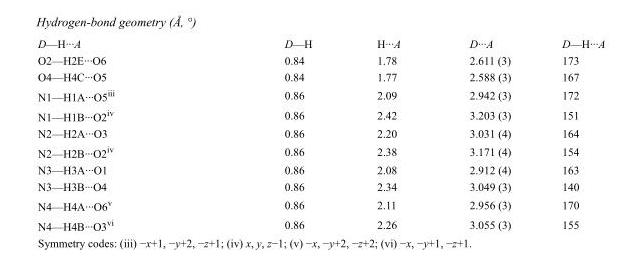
<table><tbody><tr><td>D—H···A</td><td>D—H</td><td>H···A</td><td>D···A</td><td>D—H···A</td></tr><tr><td>O2—H2E···O6</td><td>0.84</td><td>1.78</td><td>2.611 (3)</td><td>173</td></tr><tr><td>O4—H4C···O5</td><td>0.84</td><td>1.77</td><td>2.588 (3)</td><td>167</td></tr><tr><td>N1—H1A···O5<sup>iii</sup></td><td>0.86</td><td>2.09</td><td>2.942 (3)</td><td>172</td></tr><tr><td>N1—H1B···O2<sup>iv</sup></td><td>0.86</td><td>2.42</td><td>3.203 (3)</td><td>151</td></tr><tr><td>N2—H2A···O3</td><td>0.86</td><td>2.20</td><td>3.031 (4)</td><td>164</td></tr><tr><td>N2—H2B···O2<sup>iv</sup></td><td>0.86</td><td>2.38</td><td>3.171 (4)</td><td>154</td></tr><tr><td>N3—H3A···O1</td><td>0.86</td><td>2.08</td><td>2.912 (4)</td><td>163</td></tr><tr><td>N3—H3B···O4</td><td>0.86</td><td>2.34</td><td>3.049 (3)</td><td>140</td></tr><tr><td>N4—H4A···O6<sup>v</sup></td><td>0.86</td><td>2.11</td><td>2.956 (3)</td><td>170</td></tr><tr><td>N4—H4B···O3<sup>vi</sup></td><td>0.86</td><td>2.26</td><td>3.055 (3)</td><td>155</td></tr></tbody></table>